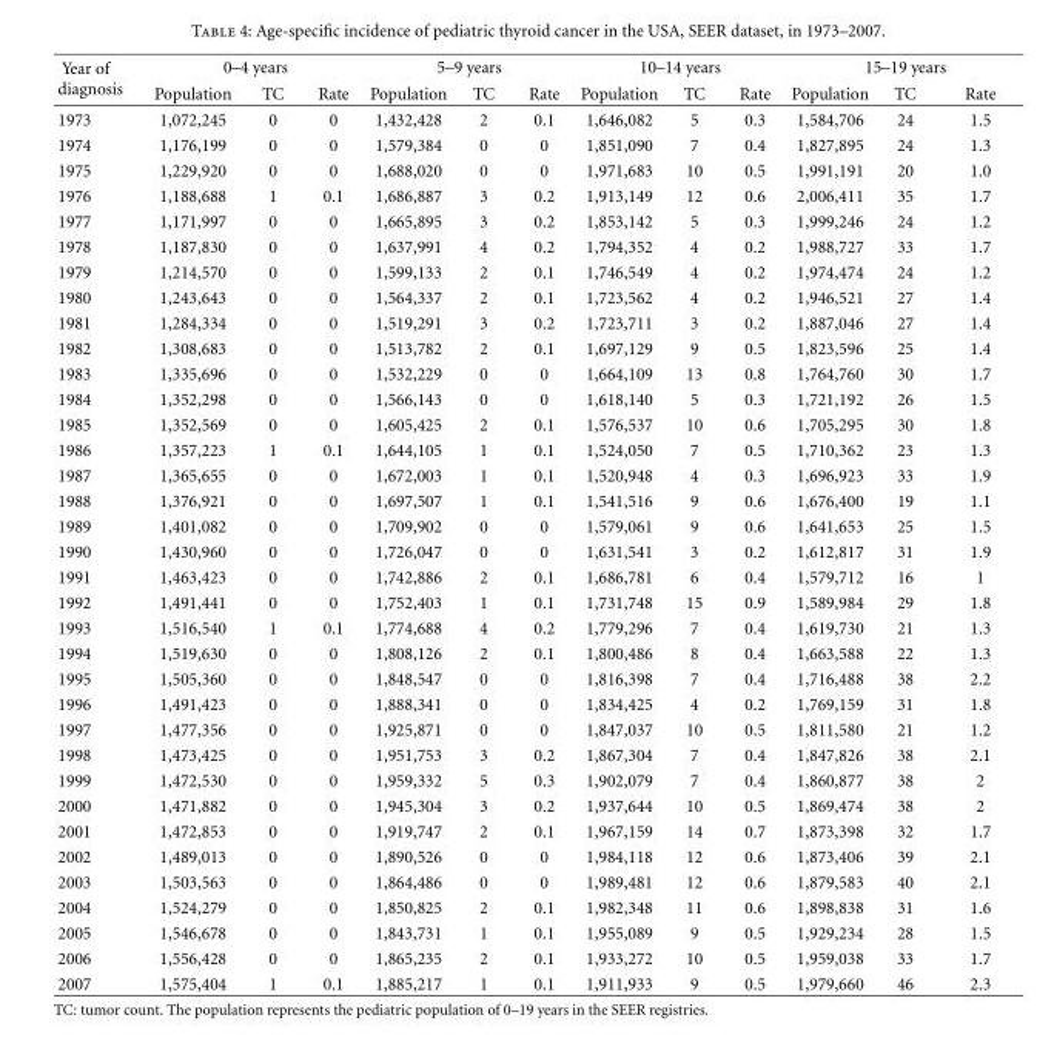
<table><thead><tr><td rowspan="2">Year of diagnosis</td><td colspan="3">0–4 years</td><td colspan="3">5–9 years</td><td colspan="3">10–14 years</td><td colspan="3">15–19 years</td></tr><tr><td>Population</td><td>TC</td><td>Rate</td><td>Population</td><td>TC</td><td>Rate</td><td>Population</td><td>TC</td><td>Rate</td><td>Population</td><td>TC</td><td>Rate</td></tr></thead><tbody><tr><td>1973</td><td>1,072,245</td><td>0</td><td>0</td><td>1,432,428</td><td>2</td><td>0.1</td><td>1,646,082</td><td>5</td><td>0.3</td><td>1,584,706</td><td>24</td><td>1.5</td></tr><tr><td>1974</td><td>1,176,199</td><td>0</td><td>0</td><td>1,579,384</td><td>0</td><td>0</td><td>1,851,090</td><td>7</td><td>0.4</td><td>1,827,895</td><td>24</td><td>1.3</td></tr><tr><td>1975</td><td>1,229,920</td><td>0</td><td>0</td><td>1,688,020</td><td>0</td><td>0</td><td>1,971,683</td><td>10</td><td>0.5</td><td>1,991,191</td><td>20</td><td>1.0</td></tr><tr><td>1976</td><td>1,188,688</td><td>1</td><td>0.1</td><td>1,686,887</td><td>3</td><td>0.2</td><td>1,913,149</td><td>12</td><td>0.6</td><td>2,006,411</td><td>35</td><td>1.7</td></tr><tr><td>1977</td><td>1,171,997</td><td>0</td><td>0</td><td>1,665,895</td><td>3</td><td>0.2</td><td>1,853,142</td><td>5</td><td>0.3</td><td>1,999,246</td><td>24</td><td>1.2</td></tr><tr><td>1978</td><td>1,187,830</td><td>0</td><td>0</td><td>1,637,991</td><td>4</td><td>0.2</td><td>1,794,352</td><td>4</td><td>0.2</td><td>1,988,727</td><td>33</td><td>1.7</td></tr><tr><td>1979</td><td>1,214,570</td><td>0</td><td>0</td><td>1,599,133</td><td>2</td><td>0.1</td><td>1,746,549</td><td>4</td><td>0.2</td><td>1,974,474</td><td>24</td><td>1.2</td></tr><tr><td>1980</td><td>1,243,643</td><td>0</td><td>0</td><td>1,564,337</td><td>2</td><td>0.1</td><td>1,723,562</td><td>4</td><td>0.2</td><td>1,946,521</td><td>27</td><td>1.4</td></tr><tr><td>1981</td><td>1,284,334</td><td>0</td><td>0</td><td>1,519,291</td><td>3</td><td>0.2</td><td>1,723,711</td><td>3</td><td>0.2</td><td>1,887,046</td><td>27</td><td>1.4</td></tr><tr><td>1982</td><td>1,308,683</td><td>0</td><td>0</td><td>1,513,782</td><td>2</td><td>0.1</td><td>1,697,129</td><td>9</td><td>0.5</td><td>1,823,596</td><td>25</td><td>1.4</td></tr><tr><td>1983</td><td>1,335,696</td><td>0</td><td>0</td><td>1,532,229</td><td>0</td><td>0</td><td>1,664,109</td><td>13</td><td>0.8</td><td>1,764,760</td><td>30</td><td>1.7</td></tr><tr><td>1984</td><td>1,352,298</td><td>0</td><td>0</td><td>1,566,143</td><td>0</td><td>0</td><td>1,618,140</td><td>5</td><td>0.3</td><td>1,721,192</td><td>26</td><td>1.5</td></tr><tr><td>1985</td><td>1,352,569</td><td>0</td><td>0</td><td>1,605,425</td><td>2</td><td>0.1</td><td>1,576,537</td><td>10</td><td>0.6</td><td>1,705,295</td><td>30</td><td>1.8</td></tr><tr><td>1986</td><td>1,357,223</td><td>1</td><td>0.1</td><td>1,644,105</td><td>1</td><td>0.1</td><td>1,524,050</td><td>7</td><td>0.5</td><td>1,710,362</td><td>23</td><td>1.3</td></tr><tr><td>1987</td><td>1,365,655</td><td>0</td><td>0</td><td>1,672,003</td><td>1</td><td>0.1</td><td>1,520,948</td><td>4</td><td>0.3</td><td>1,696,923</td><td>33</td><td>1.9</td></tr><tr><td>1988</td><td>1,376,921</td><td>0</td><td>0</td><td>1,697,507</td><td>1</td><td>0.1</td><td>1,541,516</td><td>9</td><td>0.6</td><td>1,676,400</td><td>19</td><td>1.1</td></tr><tr><td>1989</td><td>1,401,082</td><td>0</td><td>0</td><td>1,709,902</td><td>0</td><td>0</td><td>1,579,061</td><td>9</td><td>0.6</td><td>1,641,653</td><td>25</td><td>1.5</td></tr><tr><td>1990</td><td>1,430,960</td><td>0</td><td>0</td><td>1,726,047</td><td>0</td><td>0</td><td>1,631,541</td><td>3</td><td>0.2</td><td>1,612,817</td><td>31</td><td>1.9</td></tr><tr><td>1991</td><td>1,463,423</td><td>0</td><td>0</td><td>1,742,886</td><td>2</td><td>0.1</td><td>1,686,781</td><td>6</td><td>0.4</td><td>1,579,712</td><td>16</td><td>1</td></tr><tr><td>1992</td><td>1,491,441</td><td>0</td><td>0</td><td>1,752,403</td><td>1</td><td>0.1</td><td>1,731,748</td><td>15</td><td>0.9</td><td>1,589,984</td><td>29</td><td>1.8</td></tr><tr><td>1993</td><td>1,516,540</td><td>1</td><td>0.1</td><td>1,774,688</td><td>4</td><td>0.2</td><td>1,779,296</td><td>7</td><td>0.4</td><td>1,619,730</td><td>21</td><td>1.3</td></tr><tr><td>1994</td><td>1,519,630</td><td>0</td><td>0</td><td>1,808,126</td><td>2</td><td>0.1</td><td>1,800,486</td><td>8</td><td>0.4</td><td>1,663,588</td><td>22</td><td>1.3</td></tr><tr><td>1995</td><td>1,505,360</td><td>0</td><td>0</td><td>1,848,547</td><td>0</td><td>0</td><td>1,816,398</td><td>7</td><td>0.4</td><td>1,716,488</td><td>38</td><td>2.2</td></tr><tr><td>1996</td><td>1,491,423</td><td>0</td><td>0</td><td>1,888,341</td><td>0</td><td>0</td><td>1,834,425</td><td>4</td><td>0.2</td><td>1,769,159</td><td>31</td><td>1.8</td></tr><tr><td>1997</td><td>1,477,356</td><td>0</td><td>0</td><td>1,925,871</td><td>0</td><td>0</td><td>1,847,037</td><td>10</td><td>0.5</td><td>1,811,580</td><td>21</td><td>1.2</td></tr><tr><td>1998</td><td>1,473,425</td><td>0</td><td>0</td><td>1,951,753</td><td>3</td><td>0.2</td><td>1,867,304</td><td>7</td><td>0.4</td><td>1,847,826</td><td>38</td><td>2.1</td></tr><tr><td>1999</td><td>1,472,530</td><td>0</td><td>0</td><td>1,959,332</td><td>5</td><td>0.3</td><td>1,902,079</td><td>7</td><td>0.4</td><td>1,860,877</td><td>38</td><td>2</td></tr><tr><td>2000</td><td>1,471,882</td><td>0</td><td>0</td><td>1,945,304</td><td>3</td><td>0.2</td><td>1,937,644</td><td>10</td><td>0.5</td><td>1,869,474</td><td>38</td><td>2</td></tr><tr><td>2001</td><td>1,472,853</td><td>0</td><td>0</td><td>1,919,747</td><td>2</td><td>0.1</td><td>1,967,159</td><td>14</td><td>0.7</td><td>1,873,398</td><td>32</td><td>1.7</td></tr><tr><td>2002</td><td>1,489,013</td><td>0</td><td>0</td><td>1,890,526</td><td>0</td><td>0</td><td>1,984,118</td><td>12</td><td>0.6</td><td>1,873,406</td><td>39</td><td>2.1</td></tr><tr><td>2003</td><td>1,503,563</td><td>0</td><td>0</td><td>1,864,486</td><td>0</td><td>0</td><td>1,989,481</td><td>12</td><td>0.6</td><td>1,879,583</td><td>40</td><td>2.1</td></tr><tr><td>2004</td><td>1,524,279</td><td>0</td><td>0</td><td>1,850,825</td><td>2</td><td>0.1</td><td>1,982,348</td><td>11</td><td>0.6</td><td>1,898,838</td><td>31</td><td>1.6</td></tr><tr><td>2005</td><td>1,546,678</td><td>0</td><td>0</td><td>1,843,731</td><td>1</td><td>0.1</td><td>1,955,089</td><td>9</td><td>0.5</td><td>1,929,234</td><td>28</td><td>1.5</td></tr><tr><td>2006</td><td>1,556,428</td><td>0</td><td>0</td><td>1,865,235</td><td>2</td><td>0.1</td><td>1,933,272</td><td>10</td><td>0.5</td><td>1,959,038</td><td>33</td><td>1.7</td></tr><tr><td>2007</td><td>1,575,404</td><td>1</td><td>0.1</td><td>1,885,217</td><td>1</td><td>0.1</td><td>1,911,933</td><td>9</td><td>0.5</td><td>1,979,660</td><td>46</td><td>2.3</td></tr></tbody></table>